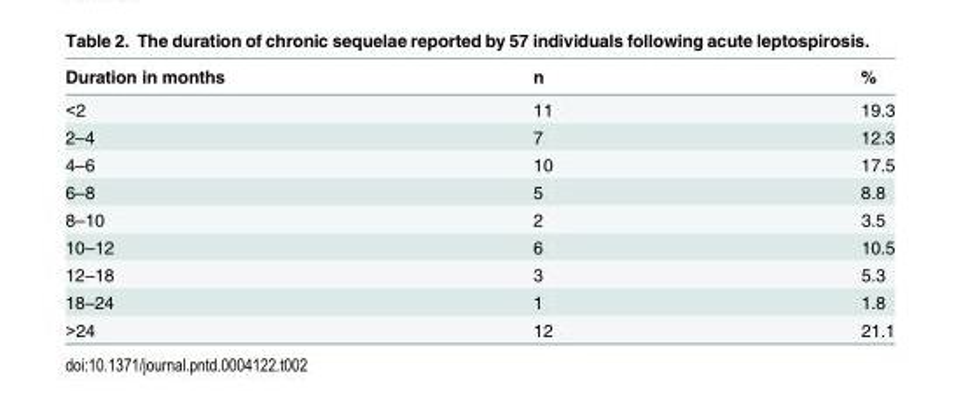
<table><thead><tr><td>Duration in months</td><td>n</td><td>%</td></tr></thead><tbody><tr><td>&lt;2</td><td>11</td><td>19.3</td></tr><tr><td>2–4</td><td>7</td><td>12.3</td></tr><tr><td>4–6</td><td>10</td><td>17.5</td></tr><tr><td>6–8</td><td>5</td><td>8.8</td></tr><tr><td>8–10</td><td>2</td><td>3.5</td></tr><tr><td>10–12</td><td>6</td><td>10.5</td></tr><tr><td>12–18</td><td>3</td><td>5.3</td></tr><tr><td>18–24</td><td>1</td><td>1.8</td></tr><tr><td>&gt;24</td><td>12</td><td>21.1</td></tr></tbody></table>